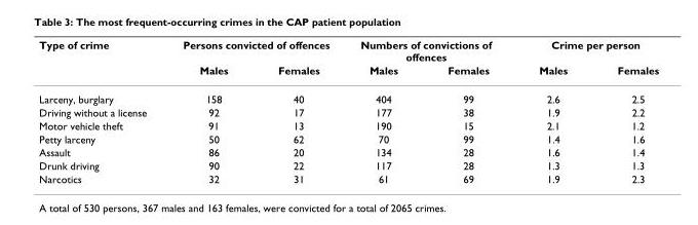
<table><thead><tr><td rowspan="2">Type of crime</td><td colspan="2">Persons convicted of offences</td><td colspan="2">Numbers of convictions of offences</td><td colspan="2">Crime per person</td></tr><tr><td>Males</td><td>Females</td><td>Males</td><td>Females</td><td>Males</td><td>Females</td></tr></thead><tbody><tr><td>Larceny, burglary</td><td>158</td><td>40</td><td>404</td><td>99</td><td>2.6</td><td>2.5</td></tr><tr><td>Driving without a license</td><td>92</td><td>17</td><td>177</td><td>38</td><td>1.9</td><td>2.2</td></tr><tr><td>Motor vehicle theft</td><td>91</td><td>13</td><td>190</td><td>15</td><td>2.1</td><td>1.2</td></tr><tr><td>Petty larceny</td><td>50</td><td>62</td><td>70</td><td>99</td><td>1.4</td><td>1.6</td></tr><tr><td>Assault</td><td>86</td><td>20</td><td>134</td><td>28</td><td>1.6</td><td>1.4</td></tr><tr><td>Drunk driving</td><td>90</td><td>22</td><td>117</td><td>28</td><td>1.3</td><td>1.3</td></tr><tr><td>Narcotics</td><td>32</td><td>31</td><td>61</td><td>69</td><td>1.9</td><td>2.3</td></tr></tbody></table>